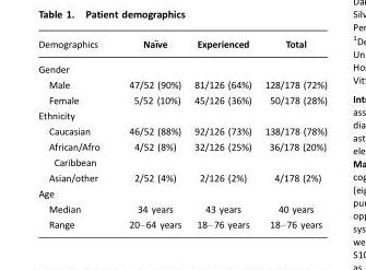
<table><thead><tr><td>Demographics</td><td>Naı¨ve</td><td>Experienced</td><td>Total</td></tr></thead><tbody><tr><td colspan="4">Gender</td></tr><tr><td>Male</td><td>47/52 (90%)</td><td>81/126 (64%)</td><td>128/178 (72%)</td></tr><tr><td>Female</td><td>5/52 (10%)</td><td>45/126 (36%)</td><td>50/178 (28%)</td></tr><tr><td colspan="4">Ethnicity</td></tr><tr><td>Caucasian</td><td>46/52 (88%)</td><td>92/126 (73%)</td><td>138/178 (78%)</td></tr><tr><td>African/Afro Caribbean</td><td>4/52 (8%)</td><td>32/126 (25%)</td><td>36/178 (20%)</td></tr><tr><td>Asian/other</td><td>2/52 (4%)</td><td>2/126 (2%)</td><td>4/178 (2%)</td></tr><tr><td colspan="4">Age</td></tr><tr><td>Median</td><td>34 years</td><td>43 years</td><td>40 years</td></tr><tr><td>Range</td><td>20–64 years</td><td>18–76 years</td><td>18–76 years</td></tr></tbody></table>